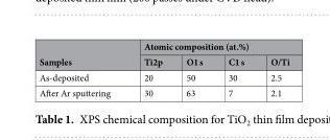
<table><thead><tr><td rowspan="2">Samples</td><td colspan="4">Atomic composition (at.%)</td></tr><tr><td>Ti2p</td><td>O1 s</td><td>C1 s</td><td>O/Ti</td></tr></thead><tbody><tr><td>As-deposited</td><td>20</td><td>50</td><td>30</td><td>2.5</td></tr><tr><td>After Ar sputtering</td><td>30</td><td>63</td><td>7</td><td>2.1</td></tr></tbody></table>